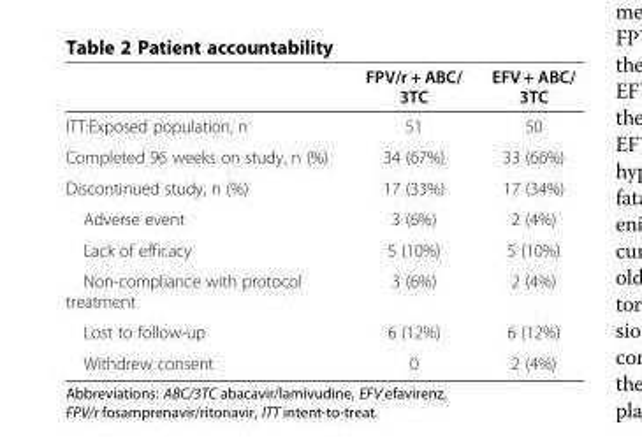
<table><thead><tr><td></td><td>FPV/r + ABC/ 3TC</td><td>EFV + ABC/ 3TC</td></tr></thead><tbody><tr><td>ITT:Exposed population, n</td><td>51</td><td>50</td></tr><tr><td>Completed 96 weeks on study, n (%)</td><td>34 (67%)</td><td>33 (66%)</td></tr><tr><td>Discontinued study, n (%)</td><td>17 (33%)</td><td>17 (34%)</td></tr><tr><td>Adverse event</td><td>3 (6%)</td><td>2 (4%)</td></tr><tr><td>Lack of efficacy</td><td>5 (10%)</td><td>5 (10%)</td></tr><tr><td>Non-compliance with protocol treatment</td><td>3 (6%)</td><td>2 (4%)</td></tr><tr><td>Lost to follow-up</td><td>6 (12%)</td><td>6 (12%)</td></tr><tr><td>Withdrew consent</td><td>0</td><td>2 (4%)</td></tr></tbody></table>